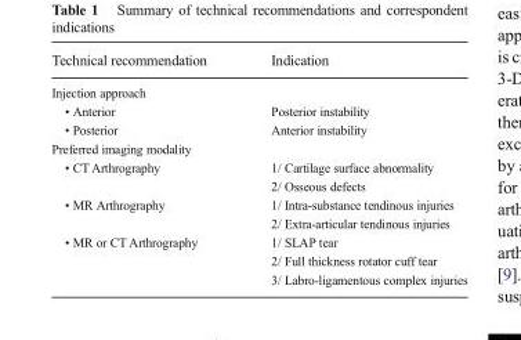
<table><thead><tr><td>Technical recommendation</td><td>Indication</td></tr></thead><tbody><tr><td colspan="2">Injection approach</td></tr><tr><td>• Anterior</td><td>Posterior instability</td></tr><tr><td>• Posterior</td><td>Anterior instability</td></tr><tr><td colspan="2">Preferred imaging modality</td></tr><tr><td rowspan="2">• CT Arthrography</td><td>1/ Cartilage surface abnormality</td></tr><tr><td>2/ Osseous defects</td></tr><tr><td rowspan="2">• MR Arthrography</td><td>1/ Intra-substance tendinous injuries</td></tr><tr><td>2/ Extra-articular tendinous injuries</td></tr><tr><td rowspan="3">• MR or CT Arthrography</td><td>1/ SLAP tear</td></tr><tr><td>2/ Full thickness rotator cuff tear</td></tr><tr><td>3/ Labro-ligamentous complex injuries</td></tr></tbody></table>